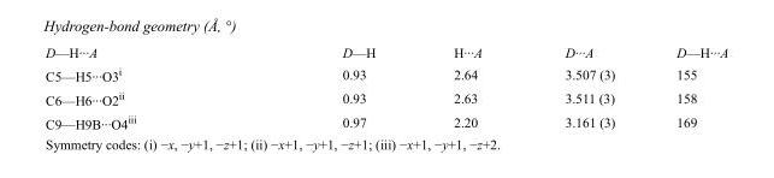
<table><tbody><tr><td>D—H···A</td><td>D—H</td><td>H···A</td><td>D···A</td><td>D—H···A</td></tr><tr><td>C5—H5···O3<sup>i</sup></td><td>0.93</td><td>2.64</td><td>3.507 (3)</td><td>155</td></tr><tr><td>C6—H6···O2<sup>ii</sup></td><td>0.93</td><td>2.63</td><td>3.511 (3)</td><td>158</td></tr><tr><td>C9—H9B···O4<sup>iii</sup></td><td>0.97</td><td>2.20</td><td>3.161 (3)</td><td>169</td></tr></tbody></table>